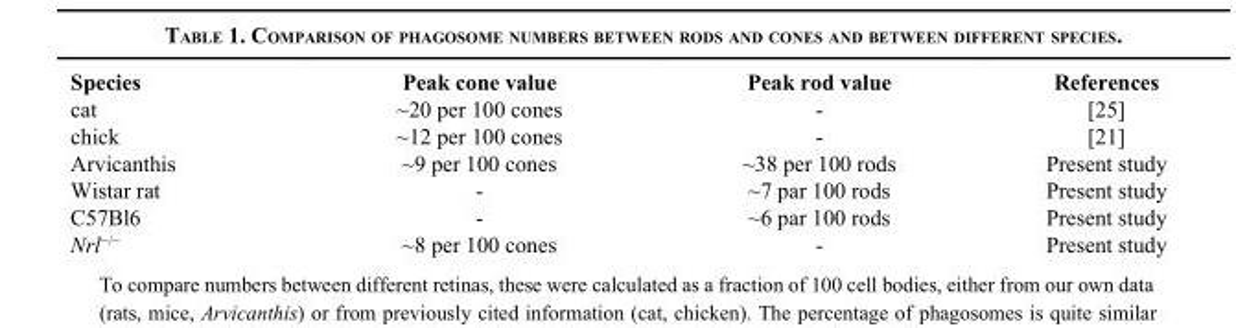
<table><thead><tr><td>Species</td><td>Peak cone value</td><td>Peak rod value</td><td>References</td></tr></thead><tbody><tr><td>cat</td><td>~20 per 100 cones</td><td>-</td><td>[25]</td></tr><tr><td>chick</td><td>~12 per 100 cones</td><td>-</td><td>[21]</td></tr><tr><td>Arvicanthis</td><td>~9 per 100 cones</td><td>~38 per 100 rods</td><td>Present study</td></tr><tr><td>Wistar rat</td><td>-</td><td>~7 par 100 rods</td><td>Present study</td></tr><tr><td>C57Bl6</td><td>-</td><td>~6 par 100 rods</td><td>Present study</td></tr><tr><td>Nrl<sup>−/−</sup></td><td>~8 per 100 cones</td><td>-</td><td>Present study</td></tr></tbody></table>